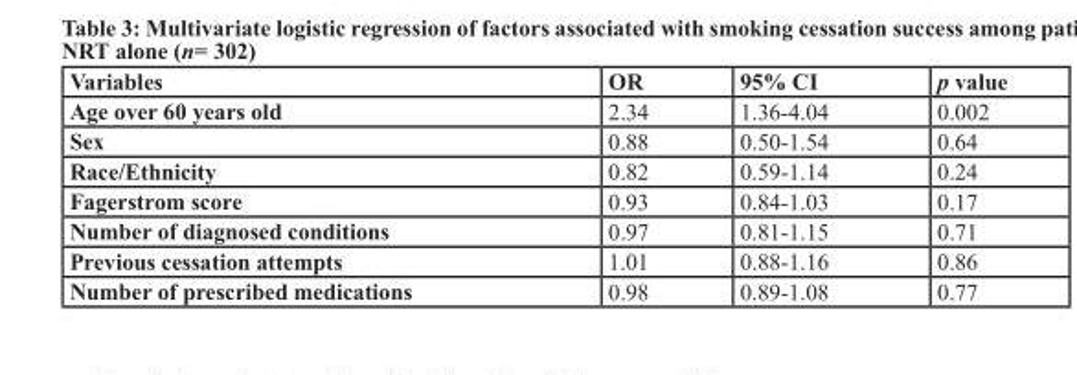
<table><thead><tr><td>Variables</td><td>OR</td><td>95% CI</td><td>p value</td></tr></thead><tbody><tr><td>Age over 60 years old</td><td>2.34</td><td>1.36-4.04</td><td>0.002</td></tr><tr><td>Sex</td><td>0.88</td><td>0.50-1.54</td><td>0.64</td></tr><tr><td>Race/Ethnicity</td><td>0.82</td><td>0.59-1.14</td><td>0.24</td></tr><tr><td>Fagerstrom score</td><td>0.93</td><td>0.84-1.03</td><td>0.17</td></tr><tr><td>Number of diagnosed conditions</td><td>0.97</td><td>0.81-1.15</td><td>0.71</td></tr><tr><td>Previous cessation attempts</td><td>1.01</td><td>0.88-1.16</td><td>0.86</td></tr><tr><td>Number of prescribed medications</td><td>0.98</td><td>0.89-1.08</td><td>0.77</td></tr></tbody></table>